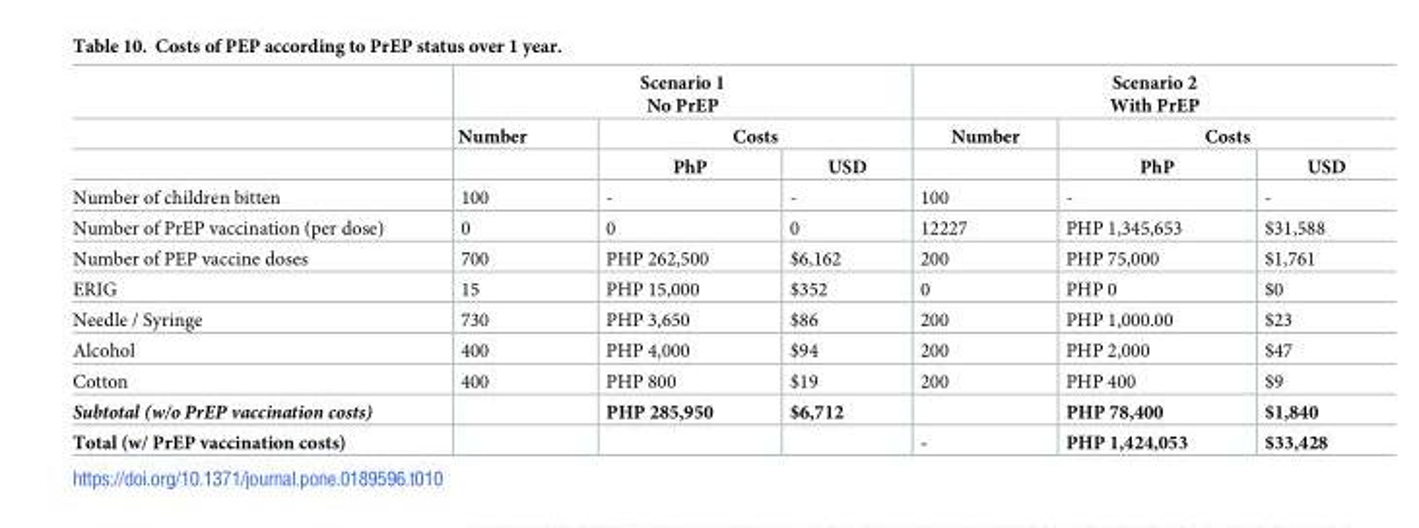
<table><thead><tr><td rowspan="3"></td><td colspan="3">Scenario 1 No PrEP</td><td colspan="3">Scenario 2 With PrEP</td></tr><tr><td rowspan="2">Number</td><td colspan="2">Costs</td><td rowspan="2">Number</td><td colspan="2">Costs</td></tr><tr><td>PhP</td><td>USD</td><td>PhP</td><td>USD</td></tr></thead><tbody><tr><td>Number of children bitten</td><td>100</td><td>-</td><td>-</td><td>100</td><td>-</td><td>-</td></tr><tr><td>Number of PrEP vaccination (per dose)</td><td>0</td><td>0</td><td>0</td><td>12227</td><td>PHP 1,345,653</td><td>$31,588</td></tr><tr><td>Number of PEP vaccine doses</td><td>700</td><td>PHP 262,500</td><td>$6,162</td><td>200</td><td>PHP 75,000</td><td>$1,761</td></tr><tr><td>ERIG</td><td>15</td><td>PHP 15,000</td><td>$352</td><td>0</td><td>PHP 0</td><td>$0</td></tr><tr><td>Needle / Syringe</td><td>730</td><td>PHP 3,650</td><td>$86</td><td>200</td><td>PHP 1,000.00</td><td>$23</td></tr><tr><td>Alcohol</td><td>400</td><td>PHP 4,000</td><td>$94</td><td>200</td><td>PHP 2,000</td><td>$47</td></tr><tr><td>Cotton</td><td>400</td><td>PHP 800</td><td>$19</td><td>200</td><td>PHP 400</td><td>$9</td></tr><tr><td>Subtotal (w/o PrEP vaccination costs)</td><td></td><td>PHP 285,950</td><td>$6,712</td><td></td><td>PHP 78,400</td><td>$1,840</td></tr><tr><td>Total (w/ PrEP vaccination costs)</td><td></td><td></td><td></td><td>-</td><td>PHP 1,424,053</td><td>$33,428</td></tr></tbody></table>